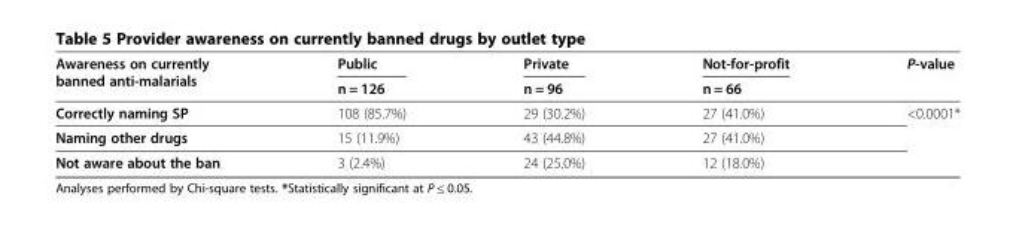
<table><thead><tr><td rowspan="2">Awareness on currently banned anti-malarials</td><td rowspan="2">Public n = 126</td><td rowspan="2">Private n = 96</td><td rowspan="2">Not-for-profit n = 66</td><td rowspan="2">P-value</td></tr><tr></tr></thead><tbody><tr><td>Correctly naming SP</td><td>108 (85.7%)</td><td>29 (30.2%)</td><td>27 (41.0%)</td><td>&lt;0.0001*</td></tr><tr><td>Naming other drugs</td><td>15 (11.9%)</td><td>43 (44.8%)</td><td>27 (41.0%)</td><td></td></tr><tr><td>Not aware about the ban</td><td>3 (2.4%)</td><td>24 (25.0%)</td><td>12 (18.0%)</td><td></td></tr></tbody></table>